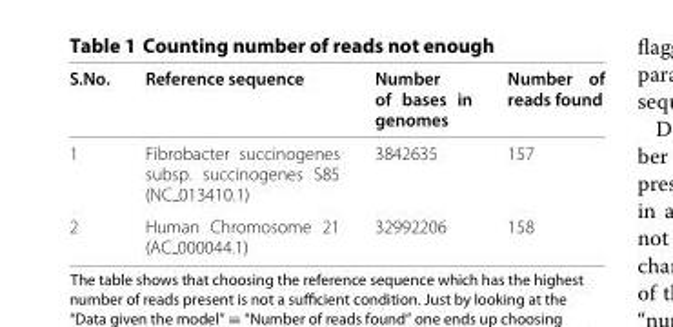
<table><thead><tr><td>S.No.</td><td>Reference sequence</td><td>Number of bases in genomes</td><td>Number of reads found</td></tr></thead><tbody><tr><td>1</td><td>Fibrobacter succinogenes subsp. succinogenes S85 (NC 013410.1)</td><td>3842635</td><td>157</td></tr><tr><td>2</td><td>Human Chromosome 21 (AC 000044.1)</td><td>32992206</td><td>158</td></tr></tbody></table>